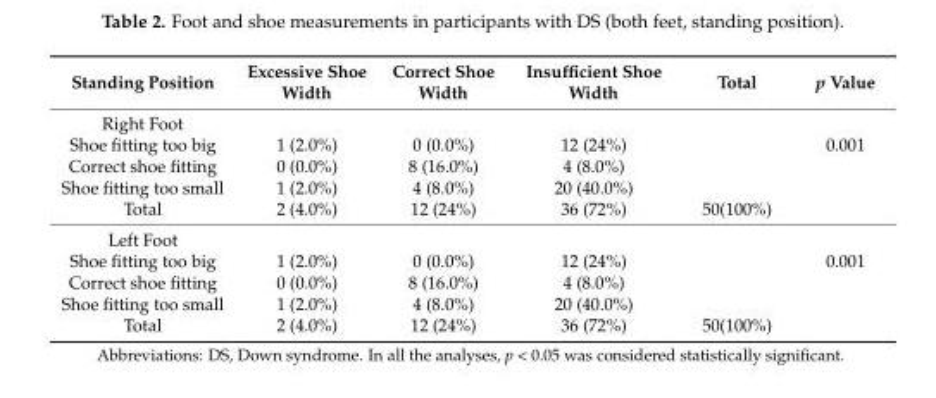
<table><thead><tr><td>Standing Position</td><td>Excessive Shoe Width</td><td>Correct Shoe Width</td><td>Insufficient Shoe Width</td><td>Total</td><td>p Value</td></tr></thead><tbody><tr><td colspan="6">Right Foot</td></tr><tr><td>Shoe fitting too big</td><td>1 (2.0%)</td><td>0 (0.0%)</td><td>12 (24%)</td><td></td><td>0.001</td></tr><tr><td>Correct shoe fitting</td><td>0 (0.0%)</td><td>8 (16.0%)</td><td>4 (8.0%)</td><td></td><td></td></tr><tr><td>Shoe fitting too small</td><td>1 (2.0%)</td><td>4 (8.0%)</td><td>20 (40.0%)</td><td></td><td></td></tr><tr><td>Total</td><td>2 (4.0%)</td><td>12 (24%)</td><td>36 (72%)</td><td>50(100%)</td><td></td></tr><tr><td colspan="6">Left Foot</td></tr><tr><td>Shoe fitting too big</td><td>1 (2.0%)</td><td>0 (0.0%)</td><td>12 (24%)</td><td></td><td>0.001</td></tr><tr><td>Correct shoe fitting</td><td>0 (0.0%)</td><td>8 (16.0%)</td><td>4 (8.0%)</td><td></td><td></td></tr><tr><td>Shoe fitting too small</td><td>1 (2.0%)</td><td>4 (8.0%)</td><td>20 (40.0%)</td><td></td><td></td></tr><tr><td>Total</td><td>2 (4.0%)</td><td>12 (24%)</td><td>36 (72%)</td><td>50(100%)</td><td></td></tr></tbody></table>